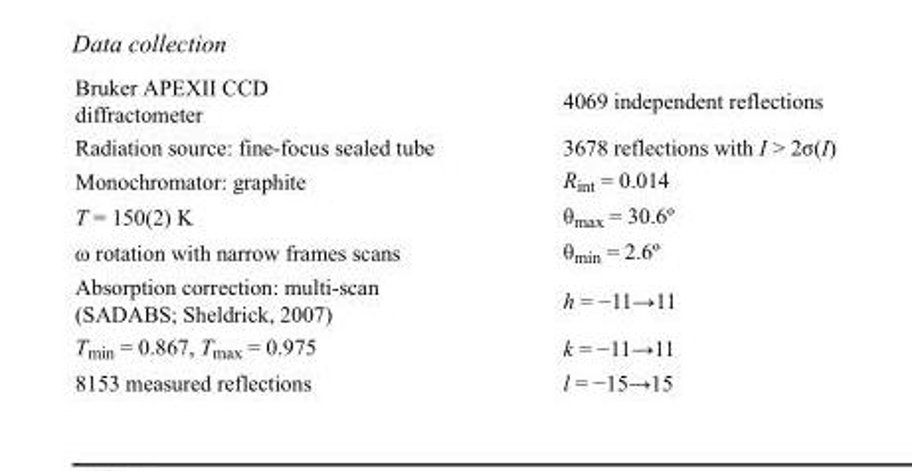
<table><tbody><tr><td>Bruker APEXII CCD diffractometer</td><td>4069 independent reflections</td></tr><tr><td>Radiation source: fine-focus sealed tube</td><td>3678 reflections with I &gt; 2σ(I)</td></tr><tr><td>Monochromator: graphite</td><td>R<sub>int</sub> = 0.014</td></tr><tr><td>T = 150(2) K</td><td>θ<sub>max</sub> = 30.6º</td></tr><tr><td>ω rotation with narrow frames scans</td><td>θ<sub>min</sub> = 2.6º</td></tr><tr><td>Absorption correction: multi-scan (SADABS; Sheldrick, 2007)</td><td>h = −11→11</td></tr><tr><td>T<sub>min</sub> = 0.867, T<sub>max</sub> = 0.975</td><td>k = −11→11</td></tr><tr><td>8153 measured reflections</td><td>l = −15→15</td></tr></tbody></table>